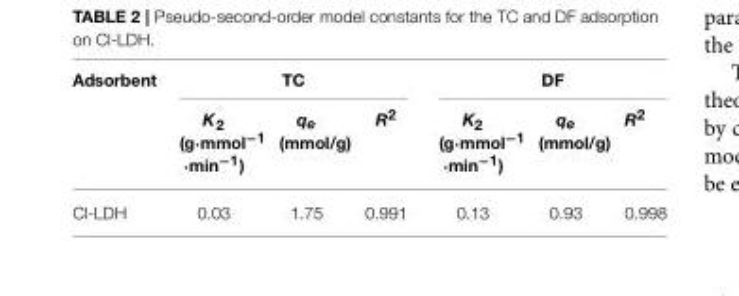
<table><thead><tr><td rowspan="2">Adsorbent</td><td colspan="3">TC</td><td colspan="3">DF</td></tr><tr><td>K<sub>2</sub> (g·mmol<sup>−1</sup> ·min<sup>−1</sup>)</td><td>qe (mmol/g)</td><td>R<sup>2</sup></td><td>K<sub>2</sub> (g·mmol<sup>−1</sup> ·min<sup>−1</sup>)</td><td>qe (mmol/g)</td><td>R<sup>2</sup></td></tr></thead><tbody><tr><td>Cl-LDH</td><td>0.03</td><td>1.75</td><td>0.991</td><td>0.13</td><td>0.93</td><td>0.998</td></tr></tbody></table>